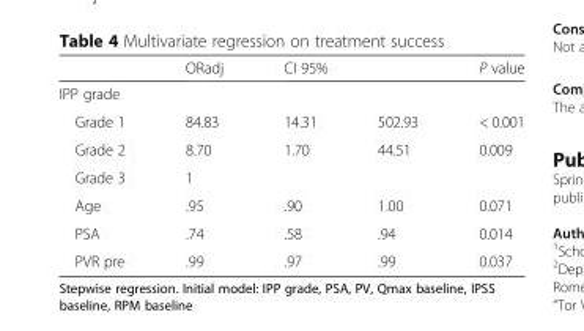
<table><thead><tr><td></td><td>ORadj</td><td colspan="2">CI 95%</td><td>P value</td></tr><tr><td colspan="5">IPP grade</td></tr><tr><td>Grade 1</td><td>84.83</td><td>14.31</td><td>502.93</td><td>&lt; 0.001</td></tr></thead><tbody><tr><td>Grade 2</td><td>8.70</td><td>1.70</td><td>44.51</td><td>0.009</td></tr><tr><td>Grade 3</td><td>1</td><td></td><td></td><td></td></tr><tr><td>Age</td><td>.95</td><td>.90</td><td>1.00</td><td>0.071</td></tr><tr><td>PSA</td><td>.74</td><td>.58</td><td>.94</td><td>0.014</td></tr><tr><td>PVR pre</td><td>.99</td><td>.97</td><td>.99</td><td>0.037</td></tr></tbody></table>